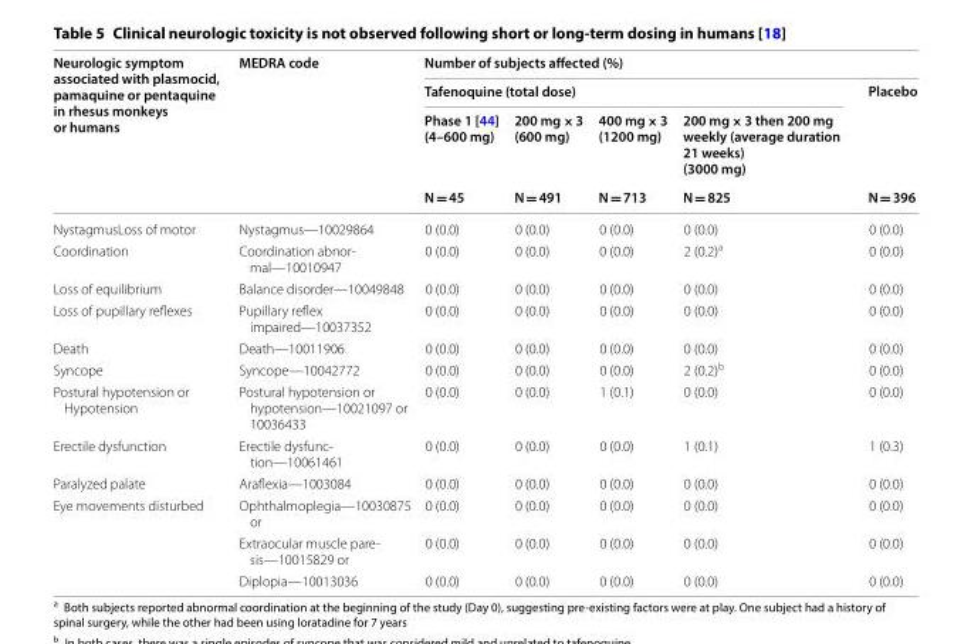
<table><thead><tr><td rowspan="4">Neurologic symptom associated with plasmocid, pamaquine or pentaquine in rhesus monkeys or humans</td><td rowspan="4">MEDRA code</td><td colspan="5">Number of subjects affected (%)</td></tr><tr><td colspan="4">Tafenoquine (total dose)</td><td rowspan="3">Placebo N = 396</td></tr><tr><td rowspan="2">Phase 1 [44] (4–600 mg) N = 45</td><td rowspan="2">200 mg × 3 (600 mg) N = 491</td><td rowspan="2">400 mg × 3 (1200 mg) N = 713</td><td rowspan="2">200 mg × 3 then 200 mg weekly (average duration 21 weeks) (3000 mg) N = 825</td></tr><tr></tr></thead><tbody><tr><td>NystagmusLoss of motor</td><td>Nystagmus—10029864</td><td>0 (0.0)</td><td>0 (0.0)</td><td>0 (0.0)</td><td>0 (0.0)</td><td>0 (0.0)</td></tr><tr><td>Coordination</td><td>Coordination abnor- mal—10010947</td><td>0 (0.0)</td><td>0 (0.0)</td><td>0 (0.0)</td><td>2 (0.2)<sup>a</sup></td><td>0 (0.0)</td></tr><tr><td>Loss of equilibrium</td><td>Balance disorder—10049848</td><td>0 (0.0)</td><td>0 (0.0)</td><td>0 (0.0)</td><td>0 (0.0)</td><td>0 (0.0)</td></tr><tr><td>Loss of pupillary reflexes</td><td>Pupillary reflex impaired—10037352</td><td>0 (0.0)</td><td>0 (0.0)</td><td>0 (0.0)</td><td>0 (0.0)</td><td>0 (0.0)</td></tr><tr><td>Death</td><td>Death—10011906</td><td>0 (0.0)</td><td>0 (0.0)</td><td>0 (0.0)</td><td>0 (0.0)</td><td>0 (0.0)</td></tr><tr><td>Syncope</td><td>Syncope—10042772</td><td>0 (0.0)</td><td>0 (0.0)</td><td>0 (0.0)</td><td>2 (0.2)<sup>b</sup></td><td>0 (0.0)</td></tr><tr><td>Postural hypotension or Hypotension</td><td>Postural hypotension or hypotension—10021097 or 10036433</td><td>0 (0.0)</td><td>0 (0.0)</td><td>1 (0.1)</td><td>0 (0.0)</td><td>0 (0.0)</td></tr><tr><td>Erectile dysfunction</td><td>Erectile dysfunc- tion—10061461</td><td>0 (0.0)</td><td>0 (0.0)</td><td>0 (0.0)</td><td>1 (0.1)</td><td>1 (0.3)</td></tr><tr><td>Paralyzed palate</td><td>Araflexia—1003084</td><td>0 (0.0)</td><td>0 (0.0)</td><td>0 (0.0)</td><td>0 (0.0)</td><td>0 (0.0)</td></tr><tr><td rowspan="3">Eye movements disturbed</td><td>Ophthalmoplegia—10030875 or</td><td>0 (0.0)</td><td>0 (0.0)</td><td>0 (0.0)</td><td>0 (0.0)</td><td>0 (0.0)</td></tr><tr><td>Extraocular muscle pare- sis—10015829 or</td><td>0 (0.0)</td><td>0 (0.0)</td><td>0 (0.0)</td><td>0 (0.0)</td><td>0 (0.0)</td></tr><tr><td>Diplopia—10013036</td><td>0 (0.0)</td><td>0 (0.0)</td><td>0 (0.0)</td><td>0 (0.0)</td><td>0 (0.0)</td></tr></tbody></table>